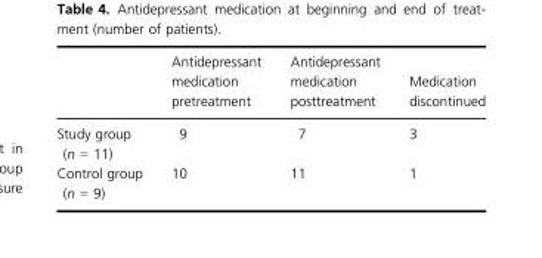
<table><thead><tr><td></td><td>Antidepressant medication pretreatment</td><td>Antidepressant medication posttreatment</td><td>Medication discontinued</td></tr></thead><tbody><tr><td>Study group (n = 11)</td><td>9</td><td>7</td><td>3</td></tr><tr><td>Control group (n = 9)</td><td>10</td><td>11</td><td>1</td></tr></tbody></table>